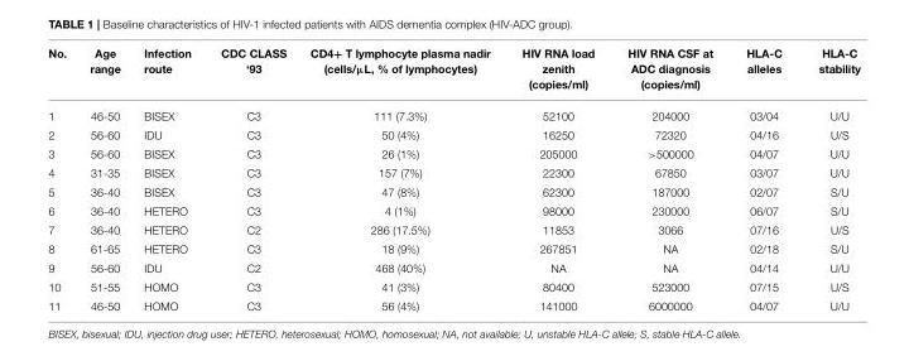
<table><thead><tr><td>No.</td><td>Age range</td><td>Infection route</td><td>CDC CLASS ‘93</td><td>CD4+ T lymphocyte plasma nadir (cells/µL, % of lymphocytes)</td><td>HIV RNA load zenith (copies/ml)</td><td>HIV RNA CSF at ADC diagnosis (copies/ml)</td><td>HLA-C alleles</td><td>HLA-C stability</td></tr></thead><tbody><tr><td>1</td><td>46-50</td><td>BISEX</td><td>C3</td><td>111 (7.3%)</td><td>52100</td><td>204000</td><td>03/04</td><td>U/U</td></tr><tr><td>2</td><td>56-60</td><td>IDU</td><td>C3</td><td>50 (4%)</td><td>16250</td><td>72320</td><td>04/16</td><td>U/S</td></tr><tr><td>3</td><td>56-60</td><td>BISEX</td><td>C3</td><td>26 (1%)</td><td>205000</td><td>&gt;500000</td><td>04/07</td><td>U/U</td></tr><tr><td>4</td><td>31-35</td><td>BISEX</td><td>C3</td><td>157 (7%)</td><td>22300</td><td>67850</td><td>03/07</td><td>U/U</td></tr><tr><td>5</td><td>36-40</td><td>BISEX</td><td>C3</td><td>47 (8%)</td><td>62300</td><td>187000</td><td>02/07</td><td>S/U</td></tr><tr><td>6</td><td>36-40</td><td>HETERO</td><td>C3</td><td>4 (1%)</td><td>98000</td><td>230000</td><td>06/07</td><td>S/U</td></tr><tr><td>7</td><td>36-40</td><td>HETERO</td><td>C2</td><td>286 (17.5%)</td><td>11853</td><td>3066</td><td>07/16</td><td>U/S</td></tr><tr><td>8</td><td>61-65</td><td>HETERO</td><td>C3</td><td>18 (9%)</td><td>267851</td><td>NA</td><td>02/18</td><td>S/U</td></tr><tr><td>9</td><td>56-60</td><td>IDU</td><td>C2</td><td>468 (40%)</td><td>NA</td><td>NA</td><td>04/14</td><td>U/U</td></tr><tr><td>10</td><td>51-55</td><td>HOMO</td><td>C3</td><td>41 (3%)</td><td>80400</td><td>523000</td><td>07/15</td><td>U/S</td></tr><tr><td>11</td><td>46-50</td><td>HOMO</td><td>C3</td><td>56 (4%)</td><td>141000</td><td>6000000</td><td>04/07</td><td>U/U</td></tr></tbody></table>